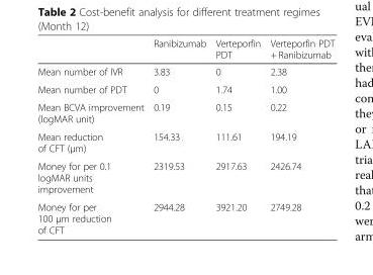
<table><thead><tr><td></td><td>Ranibizumab</td><td>Verteporfin PDT</td><td>Verteporfin PDT + Ranibizumab</td></tr></thead><tbody><tr><td>Mean number of IVR</td><td>3.83</td><td>0</td><td>2.38</td></tr><tr><td>Mean number of PDT</td><td>0</td><td>1.74</td><td>1.00</td></tr><tr><td>Mean BCVA improvement (logMAR unit)</td><td>0.19</td><td>0.15</td><td>0.22</td></tr><tr><td>Mean reduction of CFT (μm)</td><td>154.33</td><td>111.61</td><td>194.19</td></tr><tr><td>Money for per 0.1 logMAR units improvement</td><td>2319.53</td><td>2917.63</td><td>2426.74</td></tr><tr><td>Money for per 100 μm reduction of CFT</td><td>2944.28</td><td>3921.20</td><td>2749.28</td></tr></tbody></table>